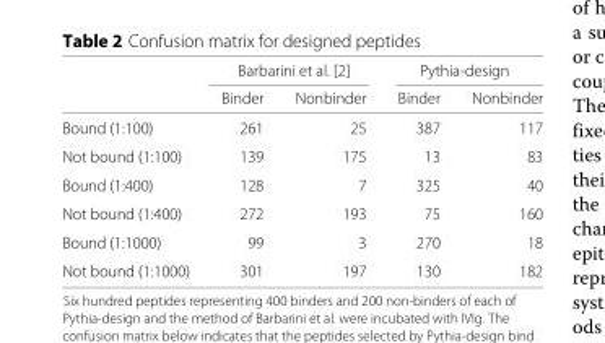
<table><thead><tr><td rowspan="2"></td><td colspan="2">Barbarini et al. [2]</td><td colspan="2">Pythia-design</td></tr><tr><td>Binder</td><td>Nonbinder</td><td>Binder</td><td>Nonbinder</td></tr></thead><tbody><tr><td>Bound (1:100)</td><td>261</td><td>25</td><td>387</td><td>117</td></tr><tr><td>Not bound (1:100)</td><td>139</td><td>175</td><td>13</td><td>83</td></tr><tr><td>Bound (1:400)</td><td>128</td><td>7</td><td>325</td><td>40</td></tr><tr><td>Not bound (1:400)</td><td>272</td><td>193</td><td>75</td><td>160</td></tr><tr><td>Bound (1:1000)</td><td>99</td><td>3</td><td>270</td><td>18</td></tr><tr><td>Not bound (1:1000)</td><td>301</td><td>197</td><td>130</td><td>182</td></tr></tbody></table>